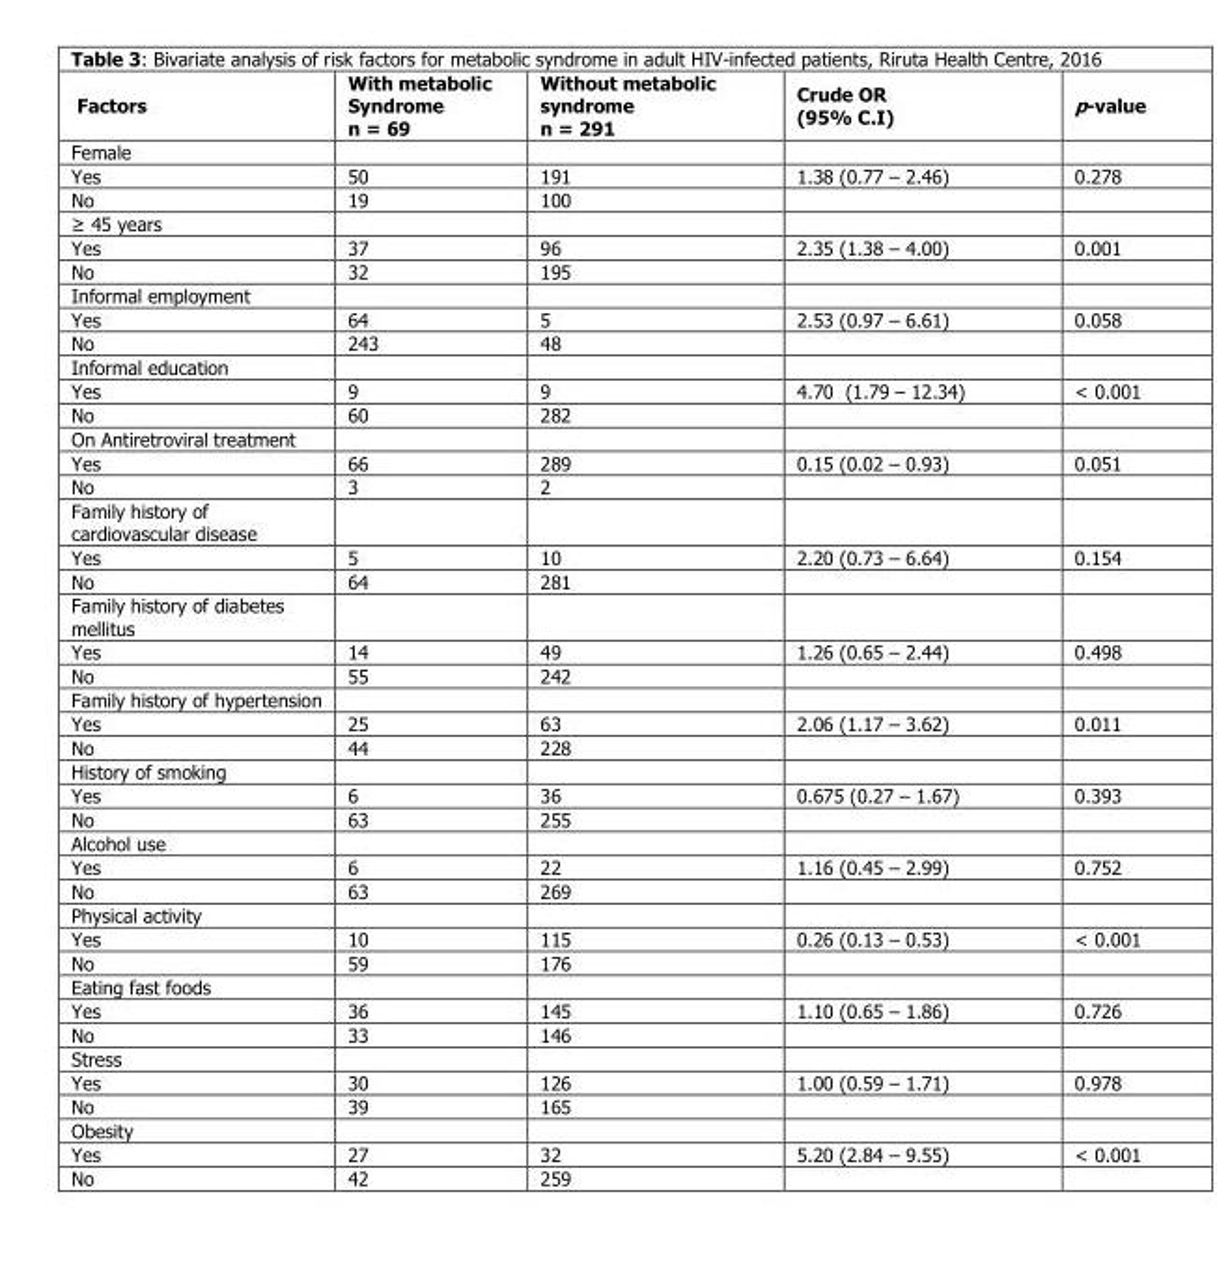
<table><thead><tr><td>Factors</td><td>With metabolic Syndrome n = 69</td><td>Without metabolic syndrome n = 291</td><td>Crude OR (95% C.I)</td><td>p-value</td></tr></thead><tbody><tr><td colspan="5">Female</td></tr><tr><td>Yes</td><td>50</td><td>191</td><td>1.38 (0.77 – 2.46)</td><td>0.278</td></tr><tr><td>No</td><td>19</td><td>100</td><td></td><td></td></tr><tr><td colspan="5">≥ 45 years</td></tr><tr><td>Yes</td><td>37</td><td>96</td><td>2.35 (1.38 – 4.00)</td><td>0.001</td></tr><tr><td>No</td><td>32</td><td>195</td><td></td><td></td></tr><tr><td colspan="5">Informal employment</td></tr><tr><td>Yes</td><td>64</td><td>5</td><td>2.53 (0.97 – 6.61)</td><td>0.058</td></tr><tr><td>No</td><td>243</td><td>48</td><td></td><td></td></tr><tr><td colspan="5">Informal education</td></tr><tr><td>Yes</td><td>9</td><td>9</td><td>4.70 (1.79 – 12.34)</td><td>&lt; 0.001</td></tr><tr><td>No</td><td>60</td><td>282</td><td></td><td></td></tr><tr><td colspan="5">On Antiretroviral treatment</td></tr><tr><td>Yes</td><td>66</td><td>289</td><td>0.15 (0.02 – 0.93)</td><td>0.051</td></tr><tr><td>No</td><td>3</td><td>2</td><td></td><td></td></tr><tr><td colspan="5">Family history of cardiovascular disease</td></tr><tr><td>Yes</td><td>5</td><td>10</td><td>2.20 (0.73 – 6.64)</td><td>0.154</td></tr><tr><td>No</td><td>64</td><td>281</td><td></td><td></td></tr><tr><td colspan="5">Family history of diabetes mellitus</td></tr><tr><td>Yes</td><td>14</td><td>49</td><td>1.26 (0.65 – 2.44)</td><td>0.498</td></tr><tr><td>No</td><td>55</td><td>242</td><td></td><td></td></tr><tr><td colspan="5">Family history of hypertension</td></tr><tr><td>Yes</td><td>25</td><td>63</td><td>2.06 (1.17 – 3.62)</td><td>0.011</td></tr><tr><td>No</td><td>44</td><td>228</td><td></td><td></td></tr><tr><td colspan="5">History of smoking</td></tr><tr><td>Yes</td><td>6</td><td>36</td><td>0.675 (0.27 – 1.67)</td><td>0.393</td></tr><tr><td>No</td><td>63</td><td>255</td><td></td><td></td></tr><tr><td colspan="5">Alcohol use</td></tr><tr><td>Yes</td><td>6</td><td>22</td><td>1.16 (0.45 – 2.99)</td><td>0.752</td></tr><tr><td>No</td><td>63</td><td>269</td><td></td><td></td></tr><tr><td colspan="5">Physical activity</td></tr><tr><td>Yes</td><td>10</td><td>115</td><td>0.26 (0.13 – 0.53)</td><td>&lt; 0.001</td></tr><tr><td>No</td><td>59</td><td>176</td><td></td><td></td></tr><tr><td colspan="5">Eating fast foods</td></tr><tr><td>Yes</td><td>36</td><td>145</td><td>1.10 (0.65 – 1.86)</td><td>0.726</td></tr><tr><td>No</td><td>33</td><td>146</td><td></td><td></td></tr><tr><td colspan="5">Stress</td></tr><tr><td>Yes</td><td>30</td><td>126</td><td>1.00 (0.59 – 1.71)</td><td>0.978</td></tr><tr><td>No</td><td>39</td><td>165</td><td></td><td></td></tr><tr><td colspan="5">Obesity</td></tr><tr><td>Yes</td><td>27</td><td>32</td><td>5.20 (2.84 – 9.55)</td><td>&lt; 0.001</td></tr><tr><td>No</td><td>42</td><td>259</td><td></td><td></td></tr></tbody></table>